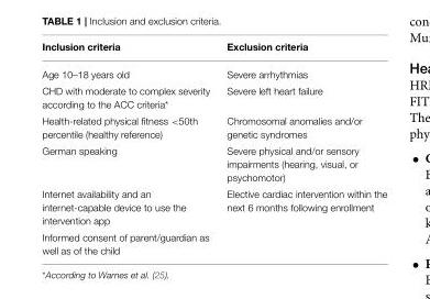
<table><thead><tr><td>Inclusion criteria</td><td>Exclusion criteria</td></tr></thead><tbody><tr><td>Age 10–18 years old</td><td>Severe arrhythmias</td></tr><tr><td>CHD with moderate to complex severity according to the ACC criteria*</td><td>Severe left heart failure</td></tr><tr><td>Health-related physical fitness &lt;50th percentile (healthy reference)</td><td>Chromosomal anomalies and/or genetic syndromes</td></tr><tr><td>German speaking</td><td>Severe physical and/or sensory impairments (hearing, visual, or psychomotor)</td></tr><tr><td>Internet availability and an internet-capable device to use the intervention app</td><td>Elective cardiac intervention within the next 6 months following enrollment</td></tr><tr><td>Informed consent of parent/guardian as well as of the child</td><td></td></tr></tbody></table>